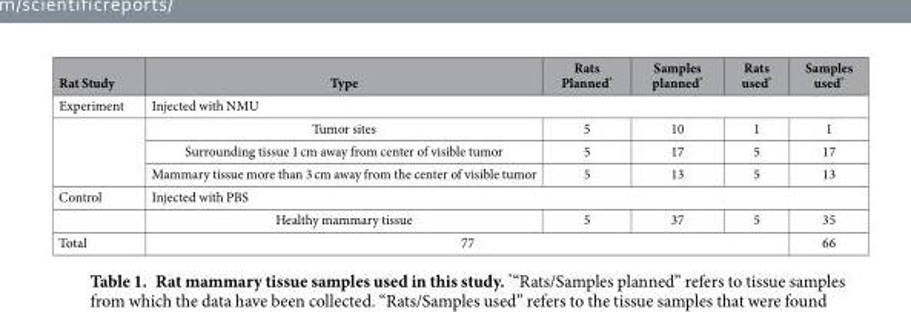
<table><thead><tr><td>Rat Study</td><td>Type</td><td>Rats Planned*</td><td>Samples planned*</td><td>Rats used*</td><td>Samples used*</td></tr></thead><tbody><tr><td rowspan="4">Experiment</td><td colspan="5">Injected with NMU</td></tr><tr><td>Tumor sites</td><td>5</td><td>10</td><td>1</td><td>1</td></tr><tr><td>Surrounding tissue 1 cm away from center of visible tumor</td><td>5</td><td>17</td><td>5</td><td>17</td></tr><tr><td>Mammary tissue more than 3 cm away from the center of visible tumor</td><td>5</td><td>13</td><td>5</td><td>13</td></tr><tr><td rowspan="2">Control</td><td colspan="5">Injected with PBS</td></tr><tr><td>Healthy mammary tissue</td><td>5</td><td>37</td><td>5</td><td>35</td></tr><tr><td>Total</td><td colspan="4">77</td><td>66</td></tr></tbody></table>